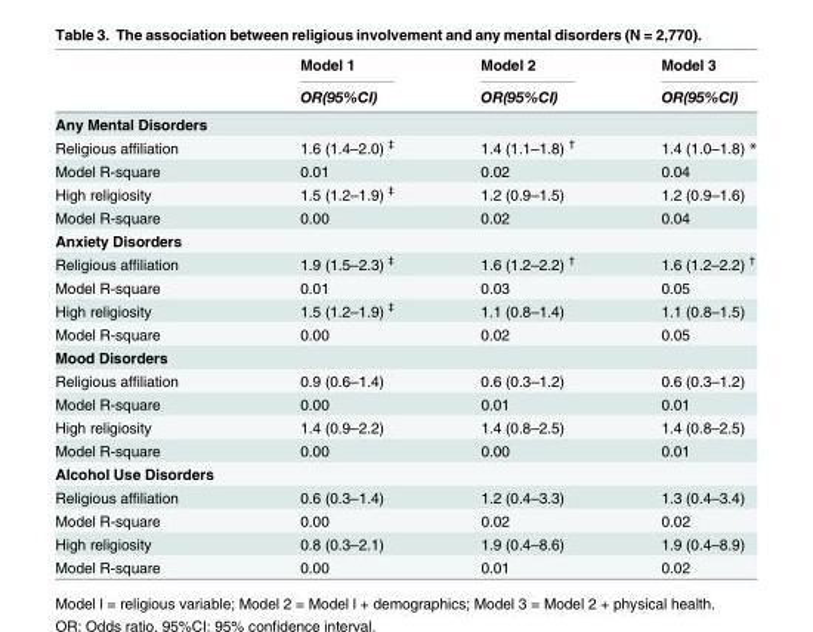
<table><thead><tr><td rowspan="2"></td><td rowspan="2">Model 1 OR(95%CI)</td><td rowspan="2">Model 2 OR(95%CI)</td><td rowspan="2">Model 3 OR(95%CI)</td></tr><tr></tr></thead><tbody><tr><td colspan="4">Any Mental Disorders</td></tr><tr><td>Religious affiliation</td><td>1.6 (1.4–2.0) <sup>‡</sup></td><td>1.4 (1.1–1.8) <sup>†</sup></td><td>1.4 (1.0–1.8) *</td></tr><tr><td>Model R-square</td><td>0.01</td><td>0.02</td><td>0.04</td></tr><tr><td>High religiosity</td><td>1.5 (1.2–1.9) <sup>‡</sup></td><td>1.2 (0.9–1.5)</td><td>1.2 (0.9–1.6)</td></tr><tr><td>Model R-square</td><td>0.00</td><td>0.02</td><td>0.04</td></tr><tr><td colspan="4">Anxiety Disorders</td></tr><tr><td>Religious affiliation</td><td>1.9 (1.5–2.3) <sup>‡</sup></td><td>1.6 (1.2–2.2) <sup>†</sup></td><td>1.6 (1.2–2.2) <sup>†</sup></td></tr><tr><td>Model R-square</td><td>0.01</td><td>0.03</td><td>0.05</td></tr><tr><td>High religiosity</td><td>1.5 (1.2–1.9) <sup>‡</sup></td><td>1.1 (0.8–1.4)</td><td>1.1 (0.8–1.5)</td></tr><tr><td>Model R-square</td><td>0.00</td><td>0.02</td><td>0.05</td></tr><tr><td colspan="4">Mood Disorders</td></tr><tr><td>Religious affiliation</td><td>0.9 (0.6–1.4)</td><td>0.6 (0.3–1.2)</td><td>0.6 (0.3–1.2)</td></tr><tr><td>Model R-square</td><td>0.00</td><td>0.01</td><td>0.01</td></tr><tr><td>High religiosity</td><td>1.4 (0.9–2.2)</td><td>1.4 (0.8–2.5)</td><td>1.4 (0.8–2.5)</td></tr><tr><td>Model R-square</td><td>0.00</td><td>0.00</td><td>0.01</td></tr><tr><td colspan="4">Alcohol Use Disorders</td></tr><tr><td>Religious affiliation</td><td>0.6 (0.3–1.4)</td><td>1.2 (0.4–3.3)</td><td>1.3 (0.4–3.4)</td></tr><tr><td>Model R-square</td><td>0.00</td><td>0.02</td><td>0.02</td></tr><tr><td>High religiosity</td><td>0.8 (0.3–2.1)</td><td>1.9 (0.4–8.6)</td><td>1.9 (0.4–8.9)</td></tr><tr><td>Model R-square</td><td>0.00</td><td>0.01</td><td>0.02</td></tr></tbody></table>